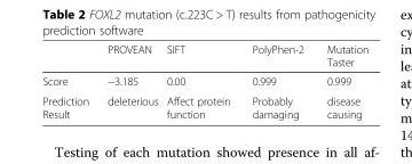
<table><thead><tr><td></td><td>PROVEAN</td><td>SIFT</td><td>PolyPhen-2</td><td>Mutation Taster</td></tr></thead><tbody><tr><td>Score</td><td>−3.185</td><td>0.00</td><td>0.999</td><td>0.999</td></tr><tr><td>Prediction Result</td><td>deleterious</td><td>Affect protein function</td><td>Probably damaging</td><td>disease causing</td></tr></tbody></table>